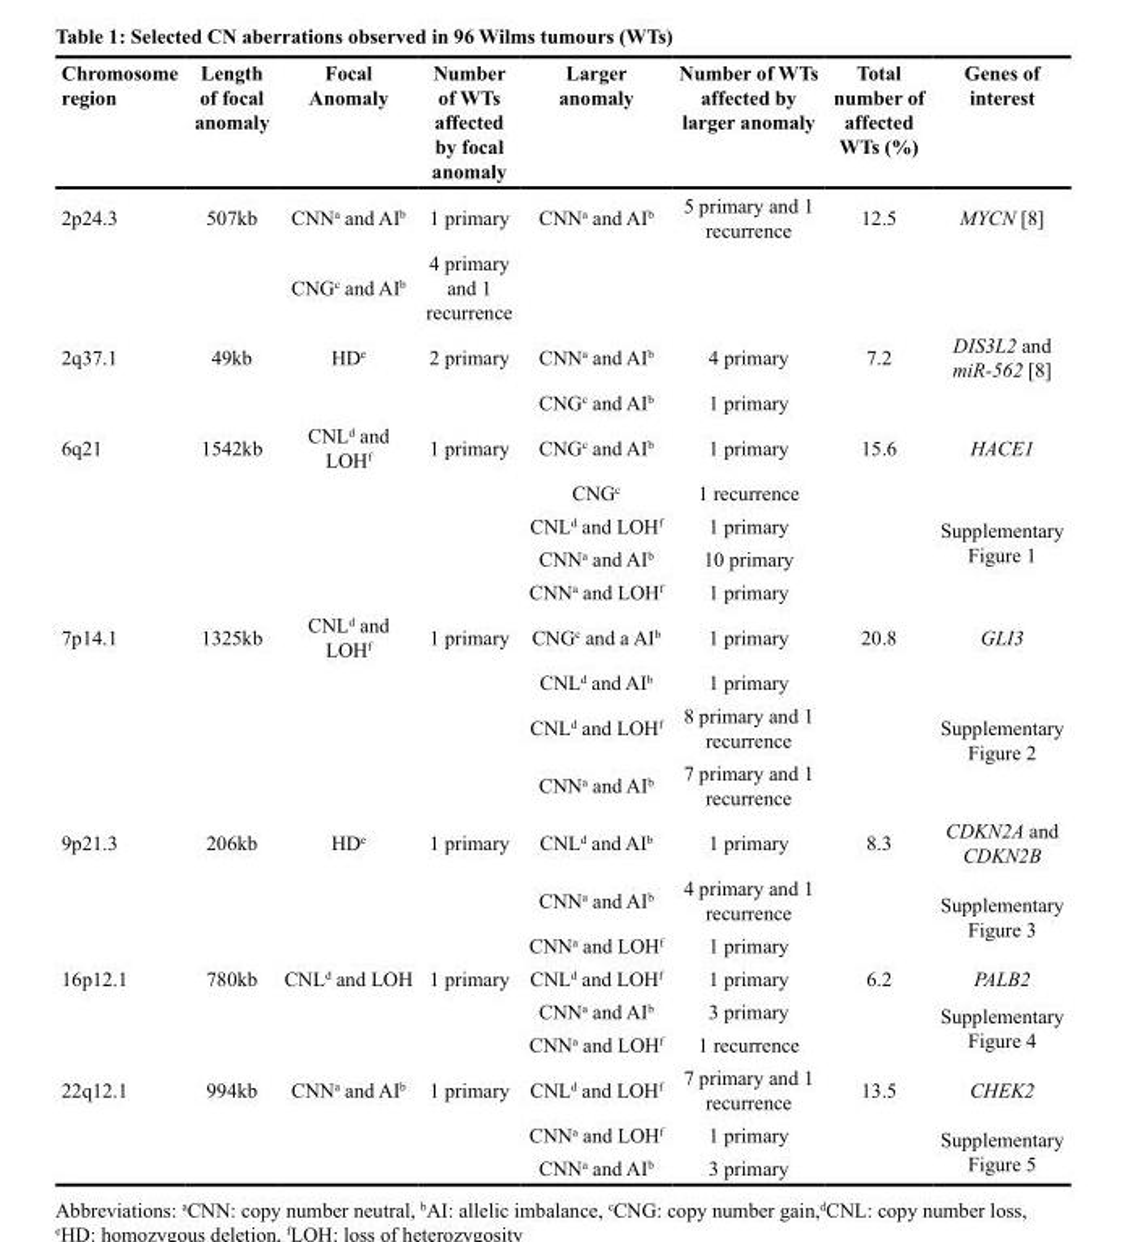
<table><thead><tr><td>Chromosome region</td><td>Length of focal anomaly</td><td>Focal Anomaly</td><td>Number of WTs affected by focal anomaly</td><td>Larger anomaly</td><td>Number of WTs affected by larger anomaly</td><td>Total number of affected WTs (%)</td><td>Genes of interest</td></tr></thead><tbody><tr><td rowspan="2">2p24.3</td><td>507kb</td><td>CNN<sup>a</sup> and AI<sup>b</sup></td><td>1 primary</td><td>CNN<sup>a</sup> and AI<sup>b</sup></td><td>5 primary and 1 recurrence</td><td>12.5</td><td>MYCN [8]</td></tr><tr><td></td><td>CNG<sup>c</sup> and AI<sup>b</sup></td><td>4 primary and 1 recurrence</td><td></td><td></td><td></td><td></td></tr><tr><td rowspan="2">2q37.1</td><td>49kb</td><td>HD<sup>e</sup></td><td>2 primary</td><td>CNN<sup>a</sup> and AI<sup>b</sup></td><td>4 primary</td><td>7.2</td><td>DIS3L2 and miR-562 [8]</td></tr><tr><td></td><td></td><td></td><td>CNG<sup>c</sup> and AI<sup>b</sup></td><td>1 primary</td><td></td><td></td></tr><tr><td rowspan="5">6q21</td><td>1542kb</td><td>CNL<sup>d</sup> and LOH<sup>f</sup></td><td>1 primary</td><td>CNG<sup>c</sup> and AI<sup>b</sup></td><td>1 primary</td><td>15.6</td><td>HACE1</td></tr><tr><td></td><td></td><td></td><td>CNG<sup>c</sup></td><td>1 recurrence</td><td></td><td rowspan="4">Supplementary Figure 1</td></tr><tr><td></td><td></td><td></td><td>CNL<sup>d</sup> and LOH<sup>f</sup></td><td>1 primary</td><td></td></tr><tr><td></td><td></td><td></td><td>CNN<sup>a</sup> and AI<sup>b</sup></td><td>10 primary</td><td></td></tr><tr><td></td><td></td><td></td><td>CNN<sup>a</sup> and LOH<sup>f</sup></td><td>1 primary</td><td></td></tr><tr><td rowspan="4">7p14.1</td><td>1325kb</td><td>CNL<sup>d</sup> and LOH<sup>f</sup></td><td>1 primary</td><td>CNG<sup>c</sup> and a AI<sup>b</sup></td><td>1 primary</td><td>20.8</td><td>GLI3</td></tr><tr><td></td><td></td><td></td><td>CNL<sup>d</sup> and AI<sup>b</sup></td><td>1 primary</td><td></td><td rowspan="3">Supplementary Figure 2</td></tr><tr><td></td><td></td><td></td><td>CNL<sup>d</sup> and LOH<sup>f</sup></td><td>8 primary and 1 recurrence</td><td></td></tr><tr><td></td><td></td><td></td><td>CNN<sup>a</sup> and AI<sup>b</sup></td><td>7 primary and 1 recurrence</td><td></td></tr><tr><td rowspan="3">9p21.3</td><td>206kb</td><td>HD<sup>e</sup></td><td>1 primary</td><td>CNL<sup>d</sup> and AI<sup>b</sup></td><td>1 primary</td><td>8.3</td><td>CDKN2A and CDKN2B</td></tr><tr><td></td><td></td><td></td><td>CNN<sup>a</sup> and AI<sup>b</sup></td><td>4 primary and 1 recurrence</td><td></td><td rowspan="2">Supplementary Figure 3</td></tr><tr><td></td><td></td><td></td><td>CNN<sup>a</sup> and LOH<sup>f</sup></td><td>1 primary</td><td></td></tr><tr><td rowspan="3">16p12.1</td><td>780kb</td><td>CNL<sup>d</sup> and LOH</td><td>1 primary</td><td>CNL<sup>d</sup> and LOH<sup>f</sup></td><td>1 primary</td><td>6.2</td><td>PALB2</td></tr><tr><td></td><td></td><td></td><td>CNN<sup>a</sup> and AI<sup>b</sup></td><td>3 primary</td><td></td><td rowspan="2">Supplementary Figure 4</td></tr><tr><td></td><td></td><td></td><td>CNN<sup>a</sup> and LOH<sup>f</sup></td><td>1 recurrence</td><td></td></tr><tr><td rowspan="3">22q12.1</td><td>994kb</td><td>CNN<sup>a</sup> and AI<sup>b</sup></td><td>1 primary</td><td>CNL<sup>d</sup> and LOH<sup>f</sup></td><td>7 primary and 1 recurrence</td><td>13.5</td><td>CHEK2</td></tr><tr><td></td><td></td><td></td><td>CNN<sup>a</sup> and LOH<sup>f</sup></td><td>1 primary</td><td></td><td rowspan="2">Supplementary Figure 5</td></tr><tr><td></td><td></td><td></td><td>CNN<sup>a</sup> and AI<sup>b</sup></td><td>3 primary</td><td></td></tr></tbody></table>